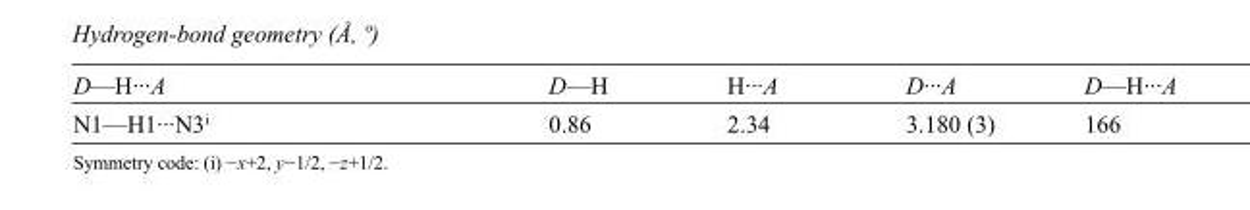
<table><tbody><tr><td>D—H···A</td><td>D—H</td><td>H···A</td><td>D···A</td><td>D—H···A</td></tr><tr><td>N1—H1···N3<sup>i</sup></td><td>0.86</td><td>2.34</td><td>3.180 (3)</td><td>166</td></tr></tbody></table>